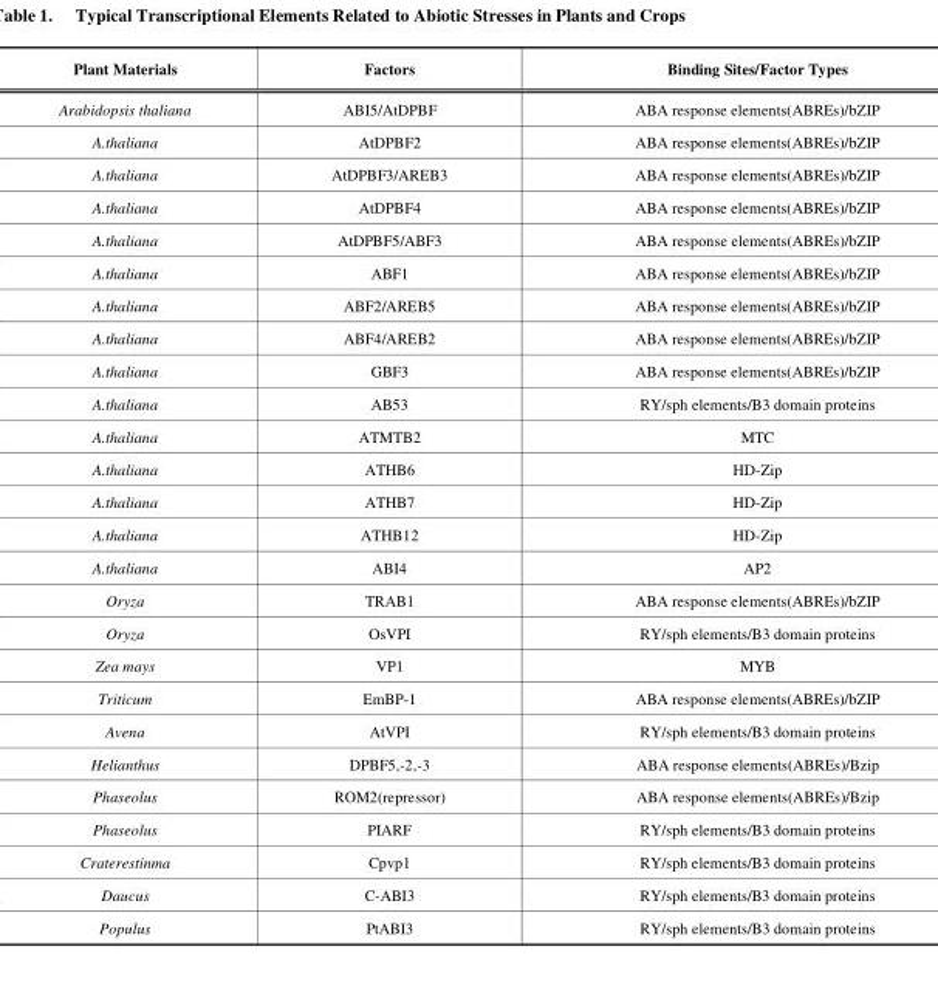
<table><thead><tr><td>Plant Materials</td><td>Factors</td><td>Binding Sites/Factor Types</td></tr></thead><tbody><tr><td>Arabidopsis thaliana</td><td>ABI5/AtDPBF</td><td>ABA response elements(ABREs)/bZIP</td></tr><tr><td>A.thaliana</td><td>AtDPBF2</td><td>ABA response elements(ABREs)/bZIP</td></tr><tr><td>A.thaliana</td><td>AtDPBF3/AREB3</td><td>ABA response elements(ABREs)/bZIP</td></tr><tr><td>A.thaliana</td><td>AtDPBF4</td><td>ABA response elements(ABREs)/bZIP</td></tr><tr><td>A.thaliana</td><td>AtDPBF5/ABF3</td><td>ABA response elements(ABREs)/bZIP</td></tr><tr><td>A.thaliana</td><td>ABF1</td><td>ABA response elements(ABREs)/bZIP</td></tr><tr><td>A.thaliana</td><td>ABF2/AREB5</td><td>ABA response elements(ABREs)/bZIP</td></tr><tr><td>A.thaliana</td><td>ABF4/AREB2</td><td>ABA response elements(ABREs)/bZIP</td></tr><tr><td>A.thaliana</td><td>GBF3</td><td>ABA response elements(ABREs)/bZIP</td></tr><tr><td>A.thaliana</td><td>AB53</td><td>RY/sph elements/B3 domain proteins</td></tr><tr><td>A.thaliana</td><td>ATMTB2</td><td>MTC</td></tr><tr><td>A.thaliana</td><td>ATHB6</td><td>HD-Zip</td></tr><tr><td>A.thaliana</td><td>ATHB7</td><td>HD-Zip</td></tr><tr><td>A.thaliana</td><td>ATHB12</td><td>HD-Zip</td></tr><tr><td>A.thaliana</td><td>ABI4</td><td>AP2</td></tr><tr><td>Oryza</td><td>TRAB1</td><td>ABA response elements(ABREs)/bZIP</td></tr><tr><td>Oryza</td><td>OsVPI</td><td>RY/sph elements/B3 domain proteins</td></tr><tr><td>Zea mays</td><td>VP1</td><td>MYB</td></tr><tr><td>Triticum</td><td>EmBP-1</td><td>ABA response elements(ABREs)/bZIP</td></tr><tr><td>Avena</td><td>AtVPI</td><td>RY/sph elements/B3 domain proteins</td></tr><tr><td>Helianthus</td><td>DPBF5,-2,-3</td><td>ABA response elements(ABREs)/Bzip</td></tr><tr><td>Phaseolus</td><td>ROM2(repressor)</td><td>ABA response elements(ABREs)/Bzip</td></tr><tr><td>Phaseolus</td><td>PIARF</td><td>RY/sph elements/B3 domain proteins</td></tr><tr><td>Craterestinma</td><td>Cpvp1</td><td>RY/sph elements/B3 domain proteins</td></tr><tr><td>Daucus</td><td>C-ABI3</td><td>RY/sph elements/B3 domain proteins</td></tr><tr><td>Populus</td><td>PtABI3</td><td>RY/sph elements/B3 domain proteins</td></tr></tbody></table>